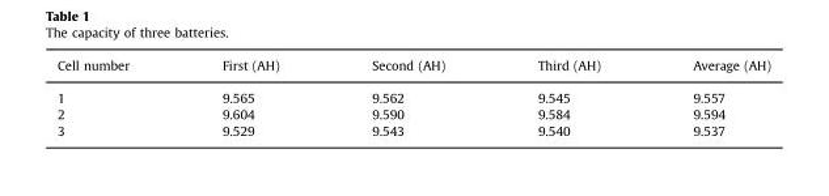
<table><thead><tr><td>Cell number</td><td>First (AH)</td><td>Second (AH)</td><td>Third (AH)</td><td>Average (AH)</td></tr></thead><tbody><tr><td>1</td><td>9.565</td><td>9.562</td><td>9.545</td><td>9.557</td></tr><tr><td>2</td><td>9.604</td><td>9.590</td><td>9.584</td><td>9.594</td></tr><tr><td>3</td><td>9.529</td><td>9.543</td><td>9.540</td><td>9.537</td></tr></tbody></table>